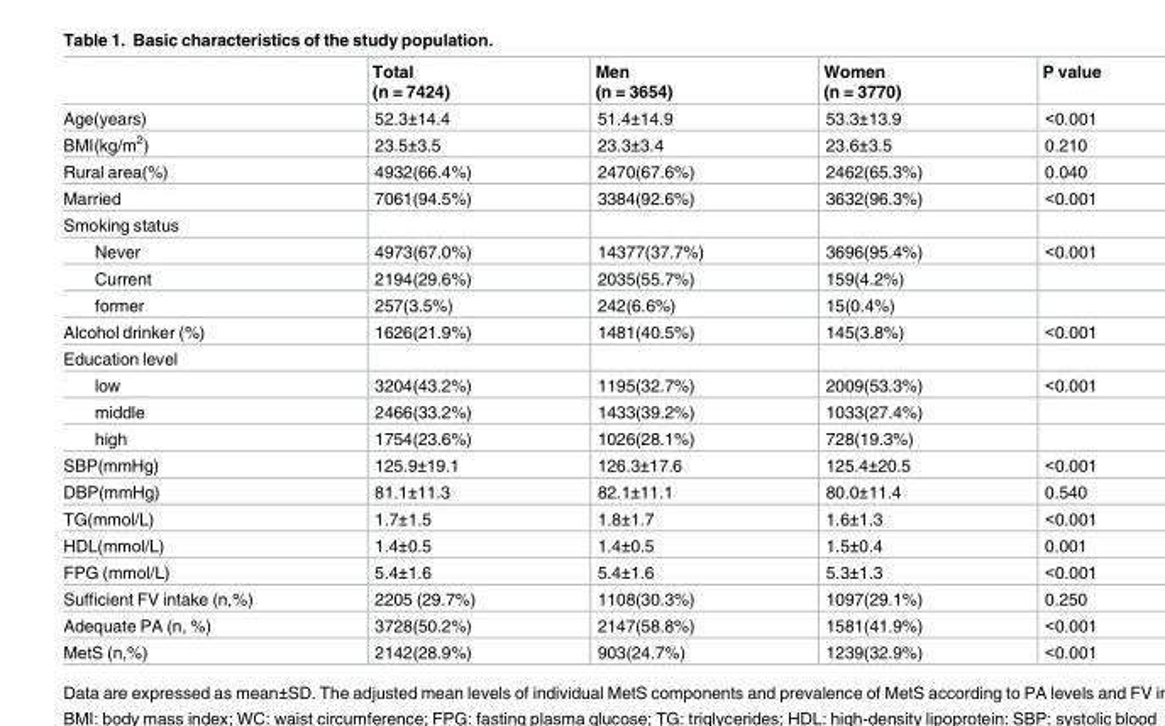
<table><thead><tr><td></td><td>Total (n = 7424)</td><td>Men (n = 3654)</td><td>Women (n = 3770)</td><td>P value</td></tr></thead><tbody><tr><td>Age(years)</td><td>52.3±14.4</td><td>51.4±14.9</td><td>53.3±13.9</td><td>&lt;0.001</td></tr><tr><td>BMI(kg/m<sup>2</sup>)</td><td>23.5±3.5</td><td>23.3±3.4</td><td>23.6±3.5</td><td>0.210</td></tr><tr><td>Rural area(%)</td><td>4932(66.4%)</td><td>2470(67.6%)</td><td>2462(65.3%)</td><td>0.040</td></tr><tr><td>Married</td><td>7061(94.5%)</td><td>3384(92.6%)</td><td>3632(96.3%)</td><td>&lt;0.001</td></tr><tr><td colspan="5">Smoking status</td></tr><tr><td>Never</td><td>4973(67.0%)</td><td>14377(37.7%)</td><td>3696(95.4%)</td><td>&lt;0.001</td></tr><tr><td>Current</td><td>2194(29.6%)</td><td>2035(55.7%)</td><td>159(4.2%)</td><td></td></tr><tr><td>former</td><td>257(3.5%)</td><td>242(6.6%)</td><td>15(0.4%)</td><td></td></tr><tr><td>Alcohol drinker (%)</td><td>1626(21.9%)</td><td>1481(40.5%)</td><td>145(3.8%)</td><td>&lt;0.001</td></tr><tr><td colspan="5">Education level</td></tr><tr><td>low</td><td>3204(43.2%)</td><td>1195(32.7%)</td><td>2009(53.3%)</td><td>&lt;0.001</td></tr><tr><td>middle</td><td>2466(33.2%)</td><td>1433(39.2%)</td><td>1033(27.4%)</td><td></td></tr><tr><td>high</td><td>1754(23.6%)</td><td>1026(28.1%)</td><td>728(19.3%)</td><td></td></tr><tr><td>SBP(mmHg)</td><td>125.9±19.1</td><td>126.3±17.6</td><td>125.4±20.5</td><td>&lt;0.001</td></tr><tr><td>DBP(mmHg)</td><td>81.1±11.3</td><td>82.1±11.1</td><td>80.0±11.4</td><td>0.540</td></tr><tr><td>TG(mmol/L)</td><td>1.7±1.5</td><td>1.8±1.7</td><td>1.6±1.3</td><td>&lt;0.001</td></tr><tr><td>HDL(mmol/L)</td><td>1.4±0.5</td><td>1.4±0.5</td><td>1.5±0.4</td><td>0.001</td></tr><tr><td>FPG (mmol/L)</td><td>5.4±1.6</td><td>5.4±1.6</td><td>5.3±1.3</td><td>&lt;0.001</td></tr><tr><td>Sufficient FV intake (n,%)</td><td>2205 (29.7%)</td><td>1108(30.3%)</td><td>1097(29.1%)</td><td>0.250</td></tr><tr><td>Adequate PA (n, %)</td><td>3728(50.2%)</td><td>2147(58.8%)</td><td>1581(41.9%)</td><td>&lt;0.001</td></tr><tr><td>MetS (n,%)</td><td>2142(28.9%)</td><td>903(24.7%)</td><td>1239(32.9%)</td><td>&lt;0.001</td></tr></tbody></table>